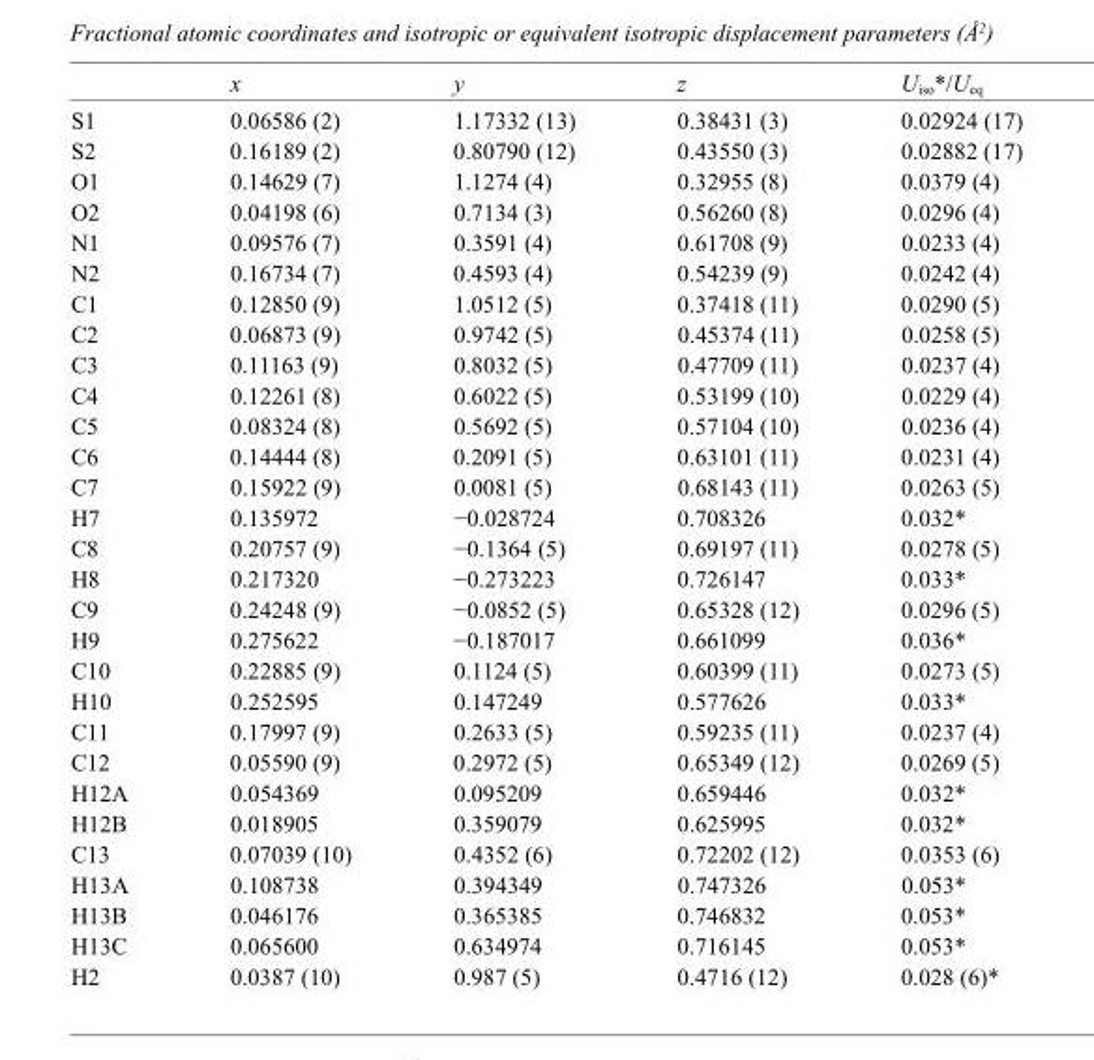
<table><thead><tr><td></td><td>x</td><td>y</td><td>z</td><td>U<sub>iso</sub>*/U<sub>eq</sub></td></tr></thead><tbody><tr><td>S1</td><td>0.06586 (2)</td><td>1.17332 (13)</td><td>0.38431 (3)</td><td>0.02924 (17)</td></tr><tr><td>S2</td><td>0.16189 (2)</td><td>0.80790 (12)</td><td>0.43550 (3)</td><td>0.02882 (17)</td></tr><tr><td>O1</td><td>0.14629 (7)</td><td>1.1274 (4)</td><td>0.32955 (8)</td><td>0.0379 (4)</td></tr><tr><td>O2</td><td>0.04198 (6)</td><td>0.7134 (3)</td><td>0.56260 (8)</td><td>0.0296 (4)</td></tr><tr><td>N1</td><td>0.09576 (7)</td><td>0.3591 (4)</td><td>0.61708 (9)</td><td>0.0233 (4)</td></tr><tr><td>N2</td><td>0.16734 (7)</td><td>0.4593 (4)</td><td>0.54239 (9)</td><td>0.0242 (4)</td></tr><tr><td>C1</td><td>0.12850 (9)</td><td>1.0512 (5)</td><td>0.37418 (11)</td><td>0.0290 (5)</td></tr><tr><td>C2</td><td>0.06873 (9)</td><td>0.9742 (5)</td><td>0.45374 (11)</td><td>0.0258 (5)</td></tr><tr><td>C3</td><td>0.11163 (9)</td><td>0.8032 (5)</td><td>0.47709 (11)</td><td>0.0237 (4)</td></tr><tr><td>C4</td><td>0.12261 (8)</td><td>0.6022 (5)</td><td>0.53199 (10)</td><td>0.0229 (4)</td></tr><tr><td>C5</td><td>0.08324 (8)</td><td>0.5692 (5)</td><td>0.57104 (10)</td><td>0.0236 (4)</td></tr><tr><td>C6</td><td>0.14444 (8)</td><td>0.2091 (5)</td><td>0.63101 (11)</td><td>0.0231 (4)</td></tr><tr><td>C7</td><td>0.15922 (9)</td><td>0.0081 (5)</td><td>0.68143 (11)</td><td>0.0263 (5)</td></tr><tr><td>H7</td><td>0.135972</td><td>−0.028724</td><td>0.708326</td><td>0.032*</td></tr><tr><td>C8</td><td>0.20757 (9)</td><td>−0.1364 (5)</td><td>0.69197 (11)</td><td>0.0278 (5)</td></tr><tr><td>H8</td><td>0.217320</td><td>−0.273223</td><td>0.726147</td><td>0.033*</td></tr><tr><td>C9</td><td>0.24248 (9)</td><td>−0.0852 (5)</td><td>0.65328 (12)</td><td>0.0296 (5)</td></tr><tr><td>H9</td><td>0.275622</td><td>−0.187017</td><td>0.661099</td><td>0.036*</td></tr><tr><td>C10</td><td>0.22885 (9)</td><td>0.1124 (5)</td><td>0.60399 (11)</td><td>0.0273 (5)</td></tr><tr><td>H10</td><td>0.252595</td><td>0.147249</td><td>0.577626</td><td>0.033*</td></tr><tr><td>C11</td><td>0.17997 (9)</td><td>0.2633 (5)</td><td>0.59235 (11)</td><td>0.0237 (4)</td></tr><tr><td>C12</td><td>0.05590 (9)</td><td>0.2972 (5)</td><td>0.65349 (12)</td><td>0.0269 (5)</td></tr><tr><td>H12A</td><td>0.054369</td><td>0.095209</td><td>0.659446</td><td>0.032*</td></tr><tr><td>H12B</td><td>0.018905</td><td>0.359079</td><td>0.625995</td><td>0.032*</td></tr><tr><td>C13</td><td>0.07039 (10)</td><td>0.4352 (6)</td><td>0.72202 (12)</td><td>0.0353 (6)</td></tr><tr><td>H13A</td><td>0.108738</td><td>0.394349</td><td>0.747326</td><td>0.053*</td></tr><tr><td>H13B</td><td>0.046176</td><td>0.365385</td><td>0.746832</td><td>0.053*</td></tr><tr><td>H13C</td><td>0.065600</td><td>0.634974</td><td>0.716145</td><td>0.053*</td></tr><tr><td>H2</td><td>0.0387 (10)</td><td>0.987 (5)</td><td>0.4716 (12)</td><td>0.028 (6)*</td></tr></tbody></table>